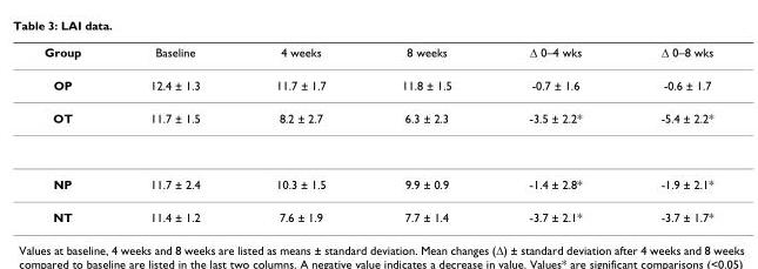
<table><thead><tr><td>Group</td><td>Baseline</td><td>4 weeks</td><td>8 weeks</td><td>Δ 0–4 wks</td><td>Δ 0–8 wks</td></tr></thead><tbody><tr><td>OP</td><td>12.4 ± 1.3</td><td>11.7 ± 1.7</td><td>11.8 ± 1.5</td><td>-0.7 ± 1.6</td><td>-0.6 ± 1.7</td></tr><tr><td>OT</td><td>11.7 ± 1.5</td><td>8.2 ± 2.7</td><td>6.3 ± 2.3</td><td>-3.5 ± 2.2*</td><td>-5.4 ± 2.2*</td></tr><tr><td>NP</td><td>11.7 ± 2.4</td><td>10.3 ± 1.5</td><td>9.9 ± 0.9</td><td>-1.4 ± 2.8*</td><td>-1.9 ± 2.1*</td></tr><tr><td>NT</td><td>11.4 ± 1.2</td><td>7.6 ± 1.9</td><td>7.7 ± 1.4</td><td>-3.7 ± 2.1*</td><td>-3.7 ± 1.7*</td></tr></tbody></table>